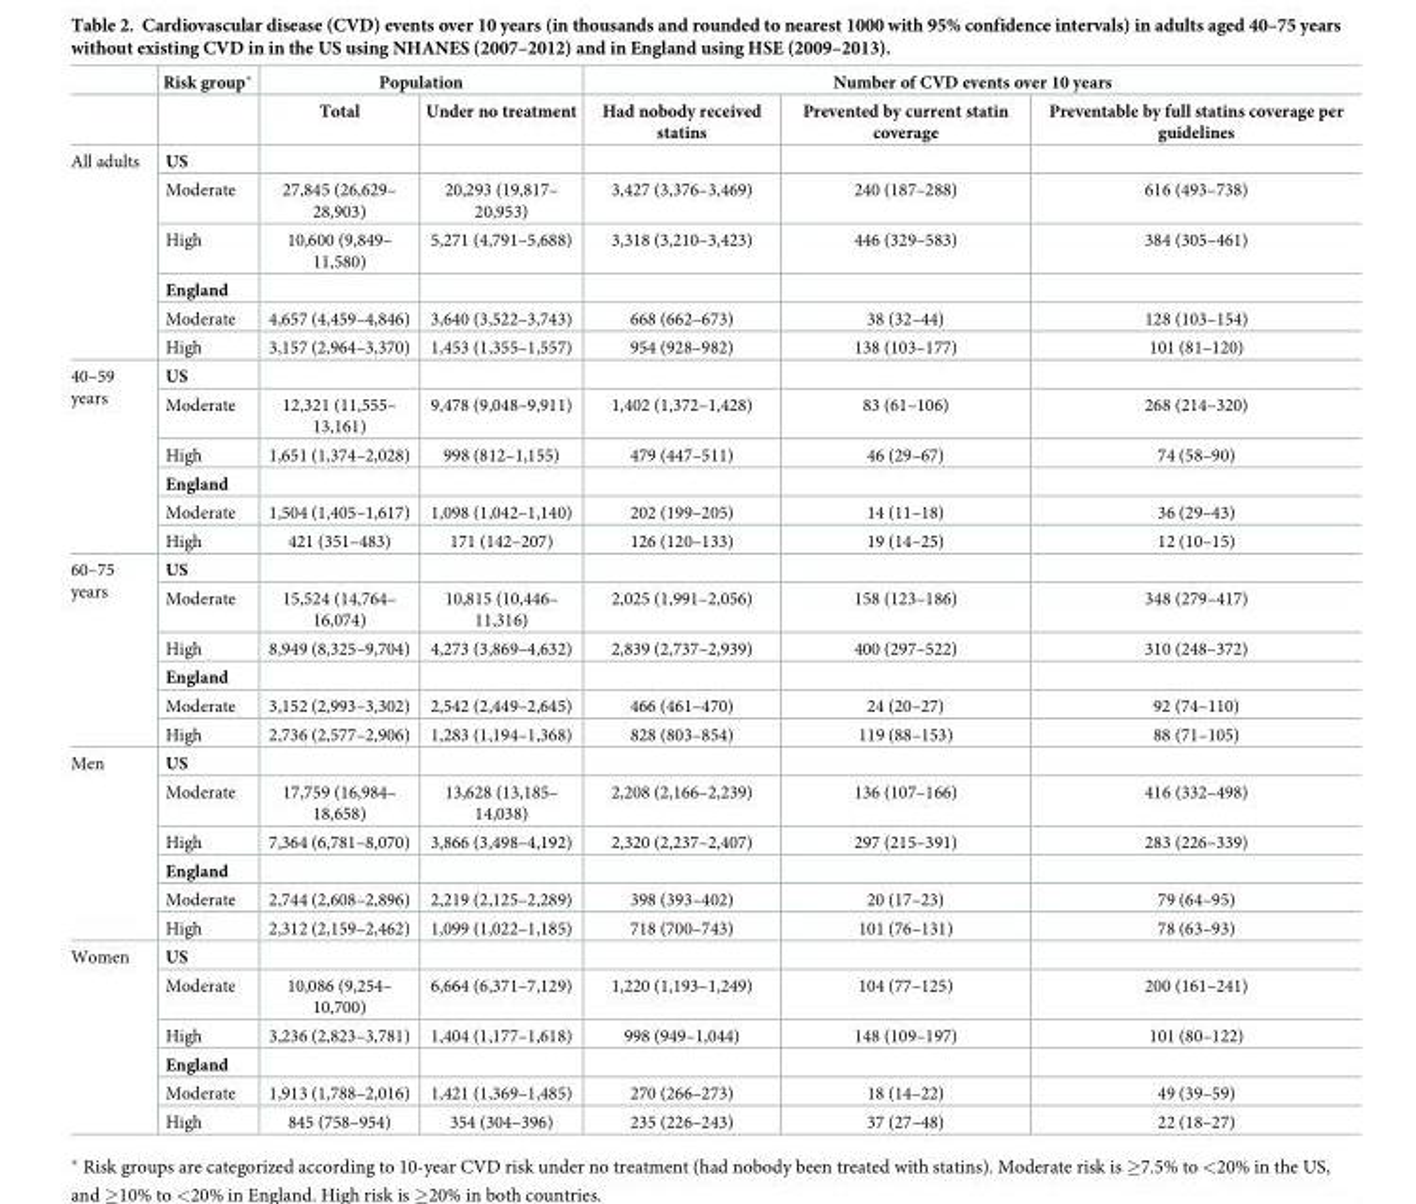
<table><thead><tr><td rowspan="2"></td><td rowspan="2">Risk group*</td><td colspan="2">Population</td><td colspan="3">Number of CVD events over 10 years</td></tr><tr><td>Total</td><td>Under no treatment</td><td>Had nobody received statins</td><td>Prevented by current statin coverage</td><td>Preventable by full statins coverage per guidelines</td></tr></thead><tbody><tr><td rowspan="6">All adults</td><td>US</td><td></td><td></td><td></td><td></td><td></td></tr><tr><td>Moderate</td><td>27,845 (26,629– 28,903)</td><td>20,293 (19,817– 20,953)</td><td>3,427 (3,376–3,469)</td><td>240 (187–288)</td><td>616 (493–738)</td></tr><tr><td>High</td><td>10,600 (9,849– 11,580)</td><td>5,271 (4,791–5,688)</td><td>3,318 (3,210–3,423)</td><td>446 (329–583)</td><td>384 (305–461)</td></tr><tr><td>England</td><td></td><td></td><td></td><td></td><td></td></tr><tr><td>Moderate</td><td>4,657 (4,459–4,846)</td><td>3,640 (3,522–3,743)</td><td>668 (662–673)</td><td>38 (32–44)</td><td>128 (103–154)</td></tr><tr><td>High</td><td>3,157 (2,964–3,370)</td><td>1,453 (1,355–1,557)</td><td>954 (928–982)</td><td>138 (103–177)</td><td>101 (81–120)</td></tr><tr><td rowspan="6">40–59 years</td><td>US</td><td></td><td></td><td></td><td></td><td></td></tr><tr><td>Moderate</td><td>12,321 (11,555– 13,161)</td><td>9,478 (9,048–9,911)</td><td>1,402 (1,372–1,428)</td><td>83 (61–106)</td><td>268 (214–320)</td></tr><tr><td>High</td><td>1,651 (1,374–2,028)</td><td>998 (812–1,155)</td><td>479 (447–511)</td><td>46 (29–67)</td><td>74 (58–90)</td></tr><tr><td>England</td><td></td><td></td><td></td><td></td><td></td></tr><tr><td>Moderate</td><td>1,504 (1,405–1,617)</td><td>1,098 (1,042–1,140)</td><td>202 (199–205)</td><td>14 (11–18)</td><td>36 (29–43)</td></tr><tr><td>High</td><td>421 (351–483)</td><td>171 (142–207)</td><td>126 (120–133)</td><td>19 (14–25)</td><td>12 (10–15)</td></tr><tr><td rowspan="6">60–75 years</td><td>US</td><td></td><td></td><td></td><td></td><td></td></tr><tr><td>Moderate</td><td>15,524 (14,764– 16,074)</td><td>10,815 (10,446– 11,316)</td><td>2,025 (1,991–2,056)</td><td>158 (123–186)</td><td>348 (279–417)</td></tr><tr><td>High</td><td>8,949 (8,325–9,704)</td><td>4,273 (3,869–4,632)</td><td>2,839 (2,737–2,939)</td><td>400 (297–522)</td><td>310 (248–372)</td></tr><tr><td>England</td><td></td><td></td><td></td><td></td><td></td></tr><tr><td>Moderate</td><td>3,152 (2,993–3,302)</td><td>2,542 (2,449–2,645)</td><td>466 (461–470)</td><td>24 (20–27)</td><td>92 (74–110)</td></tr><tr><td>High</td><td>2,736 (2,577–2,906)</td><td>1,283 (1,194–1,368)</td><td>828 (803–854)</td><td>119 (88–153)</td><td>88 (71–105)</td></tr><tr><td rowspan="6">Men</td><td>US</td><td></td><td></td><td></td><td></td><td></td></tr><tr><td>Moderate</td><td>17,759 (16,984– 18,658)</td><td>13,628 (13,185– 14,038)</td><td>2,208 (2,166–2,239)</td><td>136 (107–166)</td><td>416 (332–498)</td></tr><tr><td>High</td><td>7,364 (6,781–8,070)</td><td>3,866 (3,498–4,192)</td><td>2,320 (2,237–2,407)</td><td>297 (215–391)</td><td>283 (226–339)</td></tr><tr><td>England</td><td></td><td></td><td></td><td></td><td></td></tr><tr><td>Moderate</td><td>2,744 (2,608–2,896)</td><td>2,219 (2,125–2,289)</td><td>398 (393–402)</td><td>20 (17–23)</td><td>79 (64–95)</td></tr><tr><td>High</td><td>2,312 (2,159–2,462)</td><td>1,099 (1,022–1,185)</td><td>718 (700–743)</td><td>101 (76–131)</td><td>78 (63–93)</td></tr><tr><td rowspan="6">Women</td><td>US</td><td></td><td></td><td></td><td></td><td></td></tr><tr><td>Moderate</td><td>10,086 (9,254– 10,700)</td><td>6,664 (6,371–7,129)</td><td>1,220 (1,193–1,249)</td><td>104 (77–125)</td><td>200 (161–241)</td></tr><tr><td>High</td><td>3,236 (2,823–3,781)</td><td>1,404 (1,177–1,618)</td><td>998 (949–1,044)</td><td>148 (109–197)</td><td>101 (80–122)</td></tr><tr><td>England</td><td></td><td></td><td></td><td></td><td></td></tr><tr><td>Moderate</td><td>1,913 (1,788–2,016)</td><td>1,421 (1,369–1,485)</td><td>270 (266–273)</td><td>18 (14–22)</td><td>49 (39–59)</td></tr><tr><td>High</td><td>845 (758–954)</td><td>354 (304–396)</td><td>235 (226–243)</td><td>37 (27–48)</td><td>22 (18–27)</td></tr></tbody></table>